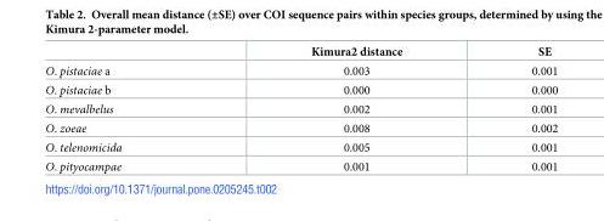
<table><thead><tr><td></td><td>Kimura2 distance</td><td>SE</td></tr></thead><tbody><tr><td>O. pistaciae a</td><td>0.003</td><td>0.001</td></tr><tr><td>O. pistaciae b</td><td>0.000</td><td>0.000</td></tr><tr><td>O. mevalbelus</td><td>0.002</td><td>0.001</td></tr><tr><td>O. zoeae</td><td>0.008</td><td>0.002</td></tr><tr><td>O. telenomicida</td><td>0.005</td><td>0.001</td></tr><tr><td>O. pityocampae</td><td>0.001</td><td>0.001</td></tr></tbody></table>